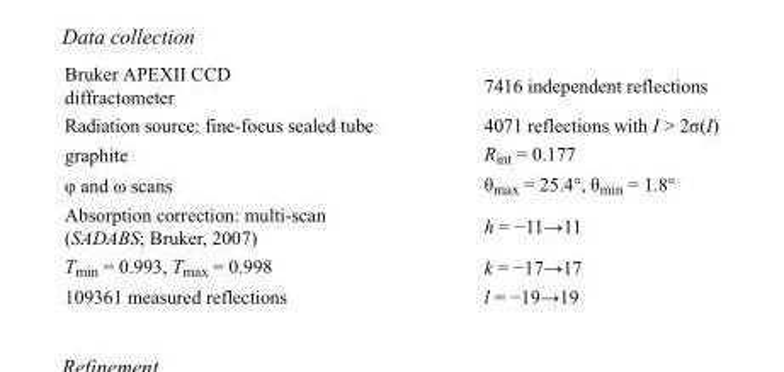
<table><tbody><tr><td>Bruker APEXII CCD diffractometer</td><td>7416 independent reflections</td></tr><tr><td>Radiation source: fine-focus sealed tube</td><td>4071 reflections with I &gt; 2σ(I)</td></tr><tr><td>graphite</td><td>R<sub>int</sub> = 0.177</td></tr><tr><td>φ and ω scans</td><td>θ<sub>max</sub> = 25.4°, θ<sub>min</sub> = 1.8°</td></tr><tr><td>Absorption correction: multi-scan (SADABS; Bruker, 2007)</td><td>h = −11→11</td></tr><tr><td>T<sub>min</sub> = 0.993, T<sub>max</sub> = 0.998</td><td>k = −17→17</td></tr><tr><td>109361 measured reflections</td><td>l = −19→19</td></tr></tbody></table>